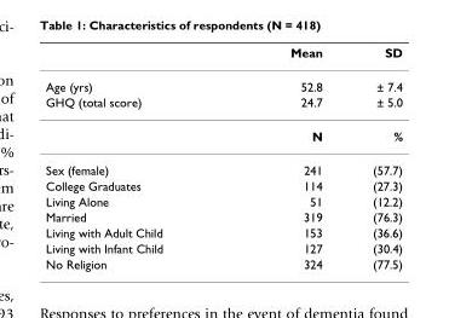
<table><thead><tr><td></td><td>Mean</td><td>SD</td></tr></thead><tbody><tr><td>Age (yrs)</td><td>52.8</td><td>± 7.4</td></tr><tr><td rowspan="2">GHQ (total score)</td><td>24.7</td><td>± 5.0</td></tr><tr><td>N</td><td>%</td></tr><tr><td>Sex (female)</td><td>241</td><td>(57.7)</td></tr><tr><td>College Graduates</td><td>114</td><td>(27.3)</td></tr><tr><td>Living Alone</td><td>51</td><td>(12.2)</td></tr><tr><td>Married</td><td>319</td><td>(76.3)</td></tr><tr><td>Living with Adult Child</td><td>153</td><td>(36.6)</td></tr><tr><td>Living with Infant Child</td><td>127</td><td>(30.4)</td></tr><tr><td>No Religion</td><td>324</td><td>(77.5)</td></tr></tbody></table>